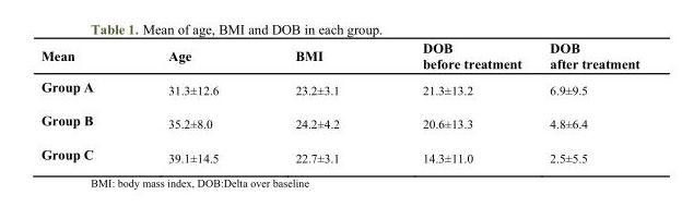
<table><thead><tr><td>Mean</td><td>Age</td><td>BMI</td><td>DOB before treatment</td><td>DOB after treatment</td></tr></thead><tbody><tr><td>Group A</td><td>31.3±12.6</td><td>23.2±3.1</td><td>21.3±13.2</td><td>6.9±9.5</td></tr><tr><td>Group B</td><td>35.2±8.0</td><td>24.2±4.2</td><td>20.6±13.3</td><td>4.8±6.4</td></tr><tr><td>Group C</td><td>39.1±14.5</td><td>22.7±3.1</td><td>14.3±11.0</td><td>2.5±5.5</td></tr></tbody></table>